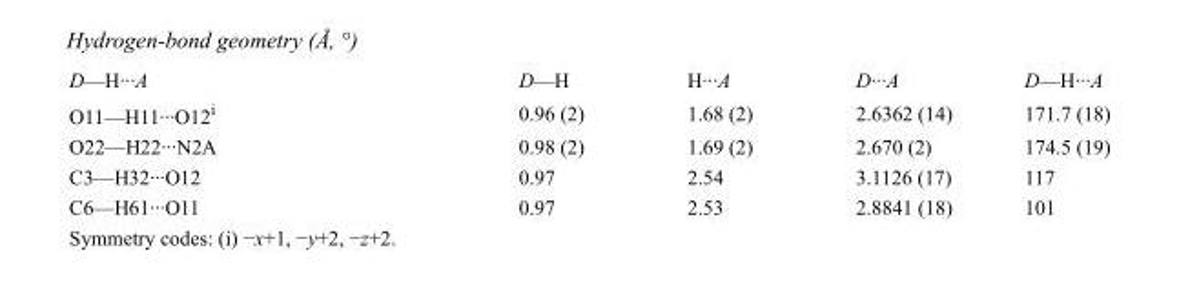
<table><tbody><tr><td>D—H···A</td><td>D—H</td><td>H···A</td><td>D···A</td><td>D—H···A</td></tr><tr><td>O11—H11···O12<sup>i</sup></td><td>0.96 (2)</td><td>1.68 (2)</td><td>2.6362 (14)</td><td>171.7 (18)</td></tr><tr><td>O22—H22···N2A</td><td>0.98 (2)</td><td>1.69 (2)</td><td>2.670 (2)</td><td>174.5 (19)</td></tr><tr><td>C3—H32···O12</td><td>0.97</td><td>2.54</td><td>3.1126 (17)</td><td>117</td></tr><tr><td>C6—H61···O11</td><td>0.97</td><td>2.53</td><td>2.8841 (18)</td><td>101</td></tr></tbody></table>